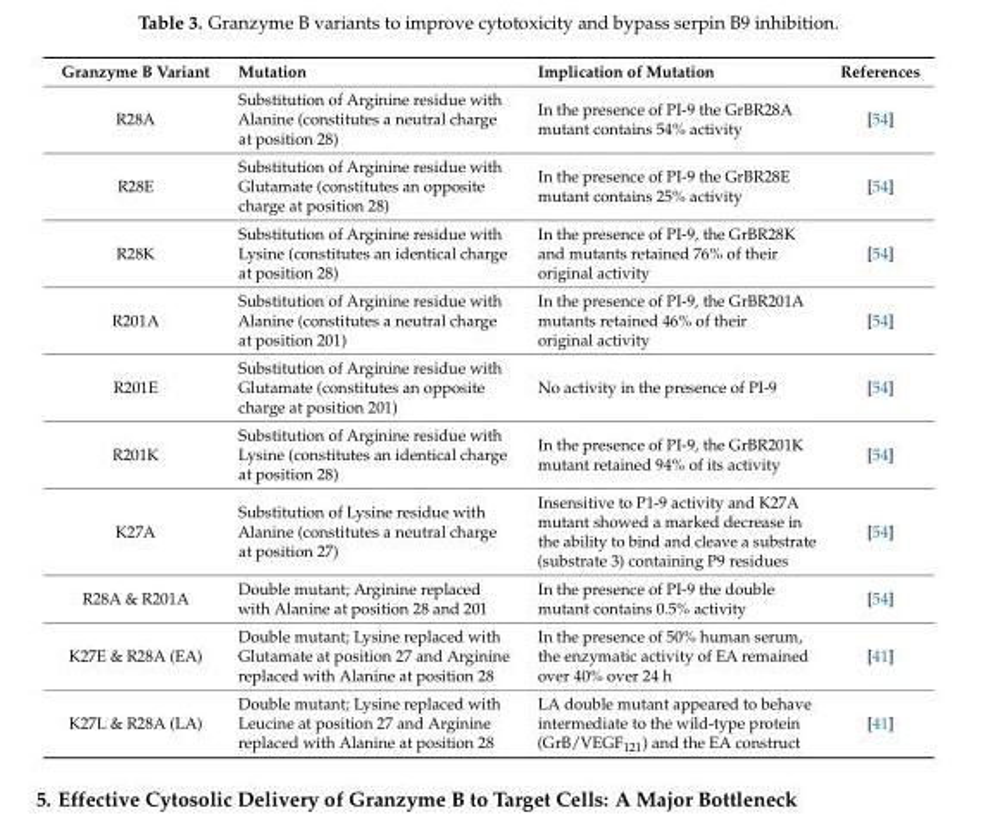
<table><thead><tr><td>Granzyme B Variant</td><td>Mutation</td><td>Implication of Mutation</td><td>References</td></tr></thead><tbody><tr><td>R28A</td><td>Substitution of Arginine residue with Alanine (constitutes a neutral charge at position 28)</td><td>In the presence of PI-9 the GrBR28A mutant contains 54% activity</td><td>[54]</td></tr><tr><td>R28E</td><td>Substitution of Arginine residue with Glutamate (constitutes an opposite charge at position 28)</td><td>In the presence of PI-9 the GrBR28E mutant contains 25% activity</td><td>[54]</td></tr><tr><td>R28K</td><td>Substitution of Arginine residue with Lysine (constitutes an identical charge at position 28)</td><td>In the presence of PI-9, the GrBR28K and mutants retained 76% of their original activity</td><td>[54]</td></tr><tr><td>R201A</td><td>Substitution of Arginine residue with Alanine (constitutes a neutral charge at position 201)</td><td>In the presence of PI-9, the GrBR201A mutants retained 46% of their original activity</td><td>[54]</td></tr><tr><td>R201E</td><td>Substitution of Arginine residue with Glutamate (constitutes an opposite charge at position 201)</td><td>No activity in the presence of PI-9</td><td>[54]</td></tr><tr><td>R201K</td><td>Substitution of Arginine residue with Lysine (constitutes an identical charge at position 28)</td><td>In the presence of PI-9, the GrBR201K mutant retained 94% of its activity</td><td>[54]</td></tr><tr><td>K27A</td><td>Substitution of Lysine residue with Alanine (constitutes a neutral charge at position 27)</td><td>Insensitive to P1-9 activity and K27A mutant showed a marked decrease in the ability to bind and cleave a substrate (substrate 3) containing P9 residues</td><td>[54]</td></tr><tr><td>R28A &amp; R201A</td><td>Double mutant; Arginine replaced with Alanine at position 28 and 201</td><td>In the presence of PI-9 the double mutant contains 0.5% activity</td><td>[54]</td></tr><tr><td>K27E &amp; R28A (EA)</td><td>Double mutant; Lysine replaced with Glutamate at position 27 and Arginine replaced with Alanine at position 28</td><td>In the presence of 50% human serum, the enzymatic activity of EA remained over 40% over 24 h</td><td>[41]</td></tr><tr><td>K27L &amp; R28A (LA)</td><td>Double mutant; Lysine replaced with Leucine at position 27 and Arginine replaced with Alanine at position 28</td><td>LA double mutant appeared to behave intermediate to the wild-type protein (GrB/VEGF<sub>121</sub>) and the EA construct</td><td>[41]</td></tr></tbody></table>